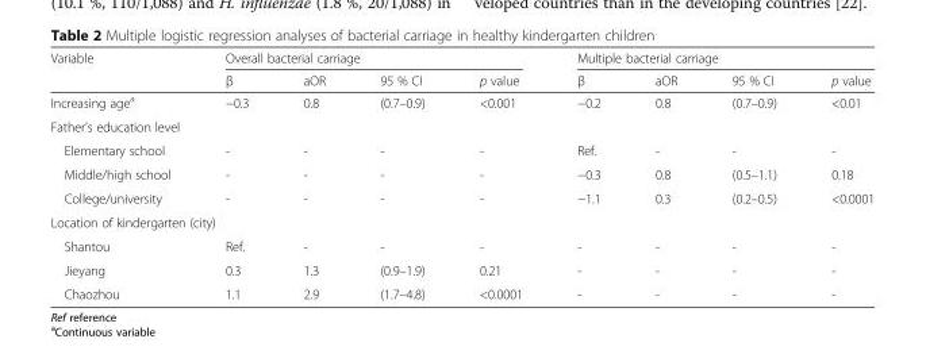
<table><thead><tr><td rowspan="2">Variable</td><td colspan="4">Overall bacterial carriage</td><td colspan="4">Multiple bacterial carriage</td></tr><tr><td>β</td><td>aOR</td><td>95 % CI</td><td>p value</td><td>β</td><td>aOR</td><td>95 % CI</td><td>p value</td></tr></thead><tbody><tr><td>Increasing age<sup>a</sup></td><td>−0.3</td><td>0.8</td><td>(0.7–0.9)</td><td>&lt;0.001</td><td>−0.2</td><td>0.8</td><td>(0.7–0.9)</td><td>&lt;0.01</td></tr><tr><td colspan="9">Father’s education level</td></tr><tr><td>Elementary school</td><td>-</td><td>-</td><td>-</td><td>-</td><td>Ref.</td><td>-</td><td>-</td><td>-</td></tr><tr><td>Middle/high school</td><td>-</td><td>-</td><td>-</td><td>-</td><td>−0.3</td><td>0.8</td><td>(0.5–1.1)</td><td>0.18</td></tr><tr><td>College/university</td><td>-</td><td>-</td><td>-</td><td>-</td><td>−1.1</td><td>0.3</td><td>(0.2–0.5)</td><td>&lt;0.0001</td></tr><tr><td colspan="9">Location of kindergarten (city)</td></tr><tr><td>Shantou</td><td>Ref.</td><td>-</td><td>-</td><td>-</td><td>-</td><td>-</td><td>-</td><td>-</td></tr><tr><td>Jieyang</td><td>0.3</td><td>1.3</td><td>(0.9–1.9)</td><td>0.21</td><td>-</td><td>-</td><td>-</td><td>-</td></tr><tr><td>Chaozhou</td><td>1.1</td><td>2.9</td><td>(1.7–4.8)</td><td>&lt;0.0001</td><td>-</td><td>-</td><td>-</td><td>-</td></tr></tbody></table>